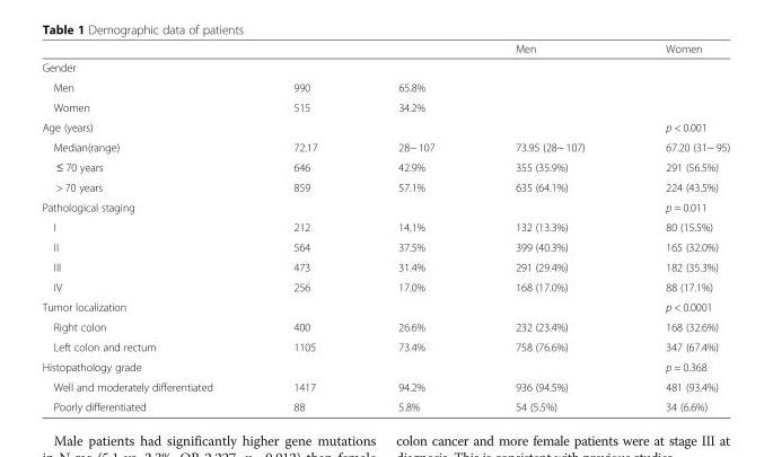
<table><thead><tr><td></td><td></td><td></td><td>Men</td><td>Women</td></tr></thead><tbody><tr><td colspan="5">Gender</td></tr><tr><td>Men</td><td>990</td><td>65.8%</td><td></td><td></td></tr><tr><td>Women</td><td>515</td><td>34.2%</td><td></td><td></td></tr><tr><td colspan="4">Age (years)</td><td>p &lt; 0.001</td></tr><tr><td>Median(range)</td><td>72.17</td><td>28~ 107</td><td>73.95 (28~ 107)</td><td>67.20 (31~ 95)</td></tr><tr><td>≤ 70 years</td><td>646</td><td>42.9%</td><td>355 (35.9%)</td><td>291 (56.5%)</td></tr><tr><td>&gt; 70 years</td><td>859</td><td>57.1%</td><td>635 (64.1%)</td><td>224 (43.5%)</td></tr><tr><td colspan="4">Pathological staging</td><td>p = 0.011</td></tr><tr><td>I</td><td>212</td><td>14.1%</td><td>132 (13.3%)</td><td>80 (15.5%)</td></tr><tr><td>II</td><td>564</td><td>37.5%</td><td>399 (40.3%)</td><td>165 (32.0%)</td></tr><tr><td>III</td><td>473</td><td>31.4%</td><td>291 (29.4%)</td><td>182 (35.3%)</td></tr><tr><td>IV</td><td>256</td><td>17.0%</td><td>168 (17.0%)</td><td>88 (17.1%)</td></tr><tr><td colspan="4">Tumor localization</td><td>p &lt; 0.0001</td></tr><tr><td>Right colon</td><td>400</td><td>26.6%</td><td>232 (23.4%)</td><td>168 (32.6%)</td></tr><tr><td>Left colon and rectum</td><td>1105</td><td>73.4%</td><td>758 (76.6%)</td><td>347 (67.4%)</td></tr><tr><td colspan="4">Histopathology grade</td><td>p = 0.368</td></tr><tr><td>Well and moderately differentiated</td><td>1417</td><td>94.2%</td><td>936 (94.5%)</td><td>481 (93.4%)</td></tr><tr><td>Poorly differentiated</td><td>88</td><td>5.8%</td><td>54 (5.5%)</td><td>34 (6.6%)</td></tr></tbody></table>